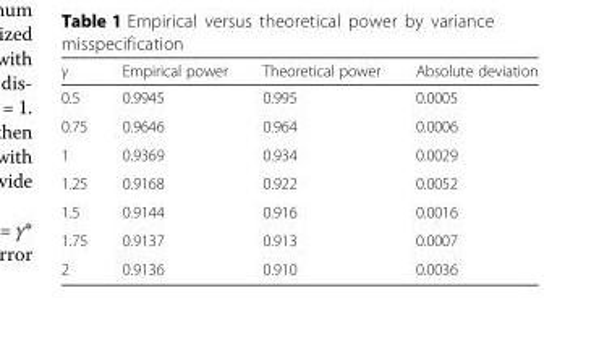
<table><thead><tr><td>γ</td><td>Empirical power</td><td>Theoretical power</td><td>Absolute deviation</td></tr></thead><tbody><tr><td>0.5</td><td>0.9945</td><td>0.995</td><td>0.0005</td></tr><tr><td>0.75</td><td>0.9646</td><td>0.964</td><td>0.0006</td></tr><tr><td>1</td><td>0.9369</td><td>0.934</td><td>0.0029</td></tr><tr><td>1.25</td><td>0.9168</td><td>0.922</td><td>0.0052</td></tr><tr><td>1.5</td><td>0.9144</td><td>0.916</td><td>0.0016</td></tr><tr><td>1.75</td><td>0.9137</td><td>0.913</td><td>0.0007</td></tr><tr><td>2</td><td>0.9136</td><td>0.910</td><td>0.0036</td></tr></tbody></table>